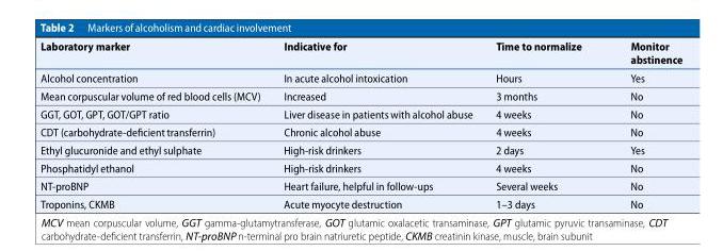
<table><thead><tr><td>Laboratory marker</td><td>Indicative for</td><td>Time to normalize</td><td>Monitor abstinence</td></tr></thead><tbody><tr><td>Alcohol concentration</td><td>In acute alcohol intoxication</td><td>Hours</td><td>Yes</td></tr><tr><td>Mean corpuscular volume of red blood cells (MCV)</td><td>Increased</td><td>3 months</td><td>No</td></tr><tr><td>GGT, GOT, GPT, GOT/GPT ratio</td><td>Liver disease in patients with alcohol abuse</td><td>4 weeks</td><td>No</td></tr><tr><td>CDT (carbohydrate-deficient transferrin)</td><td>Chronic alcohol abuse</td><td>4 weeks</td><td>No</td></tr><tr><td>Ethyl glucuronide and ethyl sulphate</td><td>High-risk drinkers</td><td>2 days</td><td>Yes</td></tr><tr><td>Phosphatidyl ethanol</td><td>High-risk drinkers</td><td>4 weeks</td><td>No</td></tr><tr><td>NT-proBNP</td><td>Heart failure, helpful in follow-ups</td><td>Several weeks</td><td>No</td></tr><tr><td>Troponins, CKMB</td><td>Acute myocyte destruction</td><td>1–3 days</td><td>No</td></tr></tbody></table>